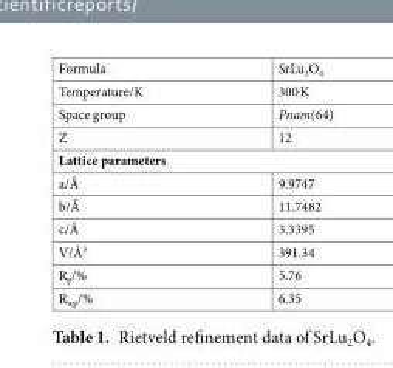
<table><tbody><tr><td>Formula</td><td>SrLu<sub>2</sub>O<sub>4</sub></td></tr><tr><td>Temperature/K</td><td>300 K</td></tr><tr><td>Space group</td><td>Pnam(64)</td></tr><tr><td>Z</td><td>12</td></tr><tr><td colspan="2">Lattice parameters</td></tr><tr><td>a/Å</td><td>9.9747</td></tr><tr><td>b/Å</td><td>11.7482</td></tr><tr><td>c/Å</td><td>3.3395</td></tr><tr><td>V/Å<sup>3</sup></td><td>391.34</td></tr><tr><td>R<sub>p</sub>/%</td><td>5.76</td></tr><tr><td>R<sub>wp</sub>/%</td><td>6.35</td></tr></tbody></table>